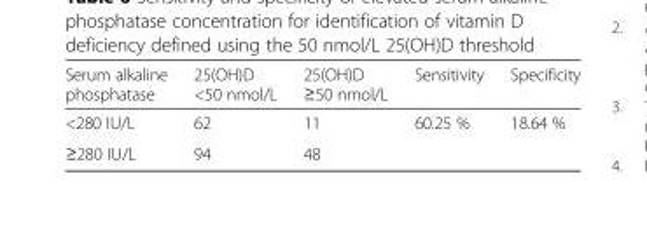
<table><thead><tr><td>Serum alkaline phosphatase</td><td>25(OH)D &lt;50 nmol/L</td><td>25(OH)D ≥50 nmol/L</td><td>Sensitivity</td><td>Specificity</td></tr></thead><tbody><tr><td>&lt;280 IU/L</td><td>62</td><td>11</td><td>60.25 %</td><td>18.64 %</td></tr><tr><td>≥280 IU/L</td><td>94</td><td>48</td><td></td><td></td></tr></tbody></table>